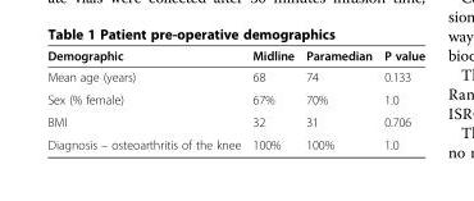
<table><thead><tr><td>Demographic</td><td>Midline</td><td>Paramedian</td><td>P value</td></tr></thead><tbody><tr><td>Mean age (years)</td><td>68</td><td>74</td><td>0.133</td></tr><tr><td>Sex (% female)</td><td>67%</td><td>70%</td><td>1.0</td></tr><tr><td>BMI</td><td>32</td><td>31</td><td>0.706</td></tr><tr><td>Diagnosis – osteoarthritis of the knee</td><td>100%</td><td>100%</td><td>1.0</td></tr></tbody></table>